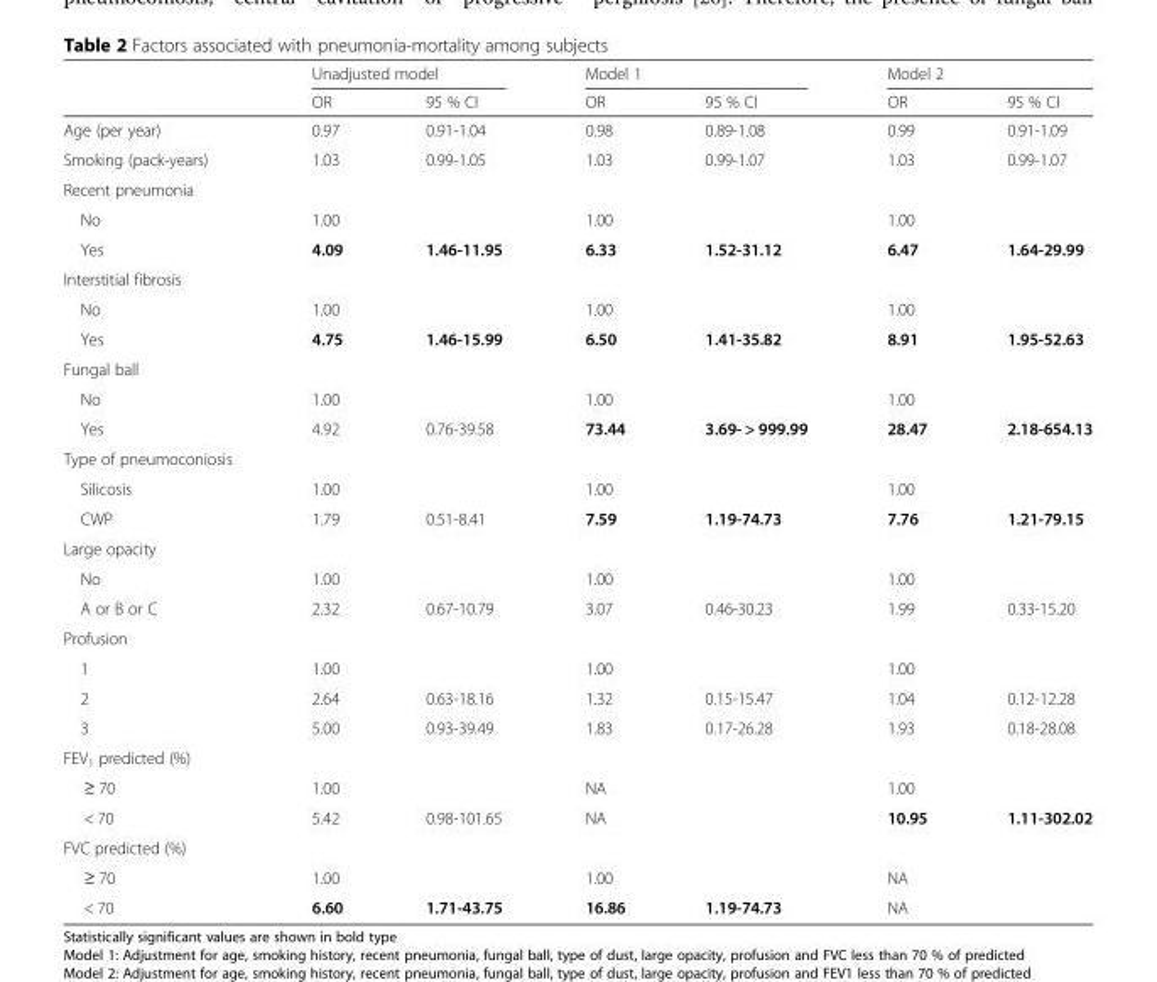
<table><thead><tr><td rowspan="2"></td><td colspan="2">Unadjusted model</td><td colspan="2">Model 1</td><td colspan="2">Model 2</td></tr><tr><td>OR</td><td>95 % CI</td><td>OR</td><td>95 % CI</td><td>OR</td><td>95 % CI</td></tr></thead><tbody><tr><td>Age (per year)</td><td>0.97</td><td>0.91-1.04</td><td>0.98</td><td>0.89-1.08</td><td>0.99</td><td>0.91-1.09</td></tr><tr><td>Smoking (pack-years)</td><td>1.03</td><td>0.99-1.05</td><td>1.03</td><td>0.99-1.07</td><td>1.03</td><td>0.99-1.07</td></tr><tr><td colspan="7">Recent pneumonia</td></tr><tr><td>No</td><td>1.00</td><td></td><td>1.00</td><td></td><td>1.00</td><td></td></tr><tr><td>Yes</td><td>4.09</td><td>1.46-11.95</td><td>6.33</td><td>1.52-31.12</td><td>6.47</td><td>1.64-29.99</td></tr><tr><td colspan="7">Interstitial fibrosis</td></tr><tr><td>No</td><td>1.00</td><td></td><td>1.00</td><td></td><td>1.00</td><td></td></tr><tr><td>Yes</td><td>4.75</td><td>1.46-15.99</td><td>6.50</td><td>1.41-35.82</td><td>8.91</td><td>1.95-52.63</td></tr><tr><td colspan="7">Fungal ball</td></tr><tr><td>No</td><td>1.00</td><td></td><td>1.00</td><td></td><td>1.00</td><td></td></tr><tr><td>Yes</td><td>4.92</td><td>0.76-39.58</td><td>73.44</td><td>3.69- &gt; 999.99</td><td>28.47</td><td>2.18-654.13</td></tr><tr><td colspan="7">Type of pneumoconiosis</td></tr><tr><td>Silicosis</td><td>1.00</td><td></td><td>1.00</td><td></td><td>1.00</td><td></td></tr><tr><td>CWP</td><td>1.79</td><td>0.51-8.41</td><td>7.59</td><td>1.19-74.73</td><td>7.76</td><td>1.21-79.15</td></tr><tr><td colspan="7">Large opacity</td></tr><tr><td>No</td><td>1.00</td><td></td><td>1.00</td><td></td><td>1.00</td><td></td></tr><tr><td>A or B or C</td><td>2.32</td><td>0.67-10.79</td><td>3.07</td><td>0.46-30.23</td><td>1.99</td><td>0.33-15.20</td></tr><tr><td colspan="7">Profusion</td></tr><tr><td>1</td><td>1.00</td><td></td><td>1.00</td><td></td><td>1.00</td><td></td></tr><tr><td>2</td><td>2.64</td><td>0.63-18.16</td><td>1.32</td><td>0.15-15.47</td><td>1.04</td><td>0.12-12.28</td></tr><tr><td>3</td><td>5.00</td><td>0.93-39.49</td><td>1.83</td><td>0.17-26.28</td><td>1.93</td><td>0.18-28.08</td></tr><tr><td colspan="7">FEV<sub>1</sub> predicted (%)</td></tr><tr><td>≥ 70</td><td>1.00</td><td></td><td>NA</td><td></td><td>1.00</td><td></td></tr><tr><td>&lt; 70</td><td>5.42</td><td>0.98-101.65</td><td>NA</td><td></td><td>10.95</td><td>1.11-302.02</td></tr><tr><td colspan="7">FVC predicted (%)</td></tr><tr><td>≥ 70</td><td>1.00</td><td></td><td>1.00</td><td></td><td>NA</td><td></td></tr><tr><td>&lt; 70</td><td>6.60</td><td>1.71-43.75</td><td>16.86</td><td>1.19-74.73</td><td>NA</td><td></td></tr></tbody></table>